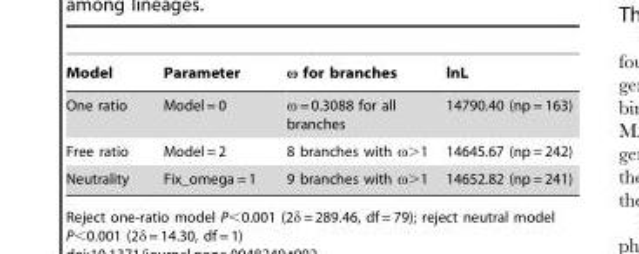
<table><thead><tr><td>Model</td><td>Parameter</td><td>ω for branches</td><td>lnL</td></tr></thead><tbody><tr><td>One ratio</td><td>Model = 0</td><td>ω = 0.3088 for all branches</td><td>14790.40 (np = 163)</td></tr><tr><td>Free ratio</td><td>Model = 2</td><td>8 branches with ω&gt;1</td><td>14645.67 (np = 242)</td></tr><tr><td>Neutrality</td><td>Fix_omega = 1</td><td>9 branches with ω&gt;1</td><td>14652.82 (np = 241)</td></tr></tbody></table>